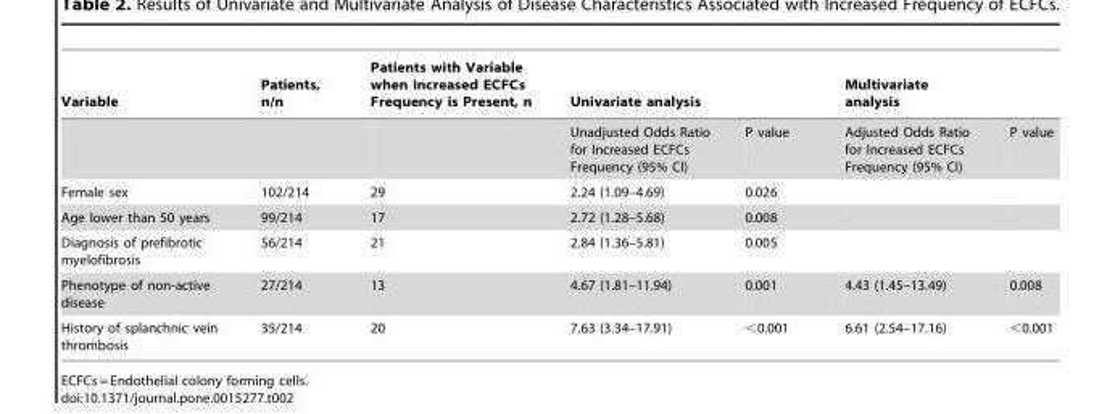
<table><thead><tr><td rowspan="2">Variable</td><td rowspan="2">Patients, n/n</td><td rowspan="2">Patients with Variable when Increased ECFCs Frequency is Present, n</td><td colspan="2">Univariate analysis</td><td colspan="2">Multivariate analysis</td></tr><tr><td>Unadjusted Odds Ratio for Increased ECFCs Frequency (95% CI)</td><td>P value</td><td>Adjusted Odds Ratio for Increased ECFCs Frequency (95% CI)</td><td>P value</td></tr></thead><tbody><tr><td>Female sex</td><td>102/214</td><td>29</td><td>2.24 (1.09–4.69)</td><td>0.026</td><td></td><td></td></tr><tr><td>Age lower than 50 years</td><td>99/214</td><td>17</td><td>2.72 (1.28–5.68)</td><td>0.008</td><td></td><td></td></tr><tr><td>Diagnosis of prefibrotic myelofibrosis</td><td>56/214</td><td>21</td><td>2.84 (1.36–5.81)</td><td>0.005</td><td></td><td></td></tr><tr><td>Phenotype of non-active disease</td><td>27/214</td><td>13</td><td>4.67 (1.81–11.94)</td><td>0.001</td><td>4.43 (1.45–13.49)</td><td>0.008</td></tr><tr><td>History of splanchnic vein thrombosis</td><td>35/214</td><td>20</td><td>7.63 (3.34–17.91)</td><td>&lt;0.001</td><td>6.61 (2.54–17.16)</td><td>&lt;0.001</td></tr></tbody></table>